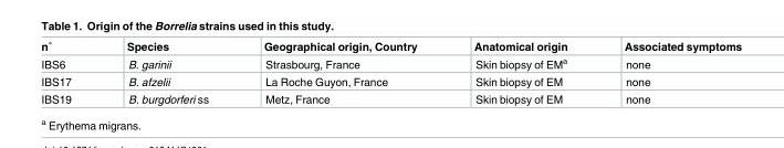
<table><thead><tr><td>n˚</td><td>Species</td><td>Geographical origin, Country</td><td>Anatomical origin</td><td>Associated symptoms</td></tr></thead><tbody><tr><td>IBS6</td><td>B. garinii</td><td>Strasbourg, France</td><td>Skin biopsy of EM<sup>a</sup></td><td>none</td></tr><tr><td>IBS17</td><td>B. afzelii</td><td>La Roche Guyon, France</td><td>Skin biopsy of EM</td><td>none</td></tr><tr><td>IBS19</td><td>B. burgdorferi ss</td><td>Metz, France</td><td>Skin biopsy of EM</td><td>none</td></tr></tbody></table>